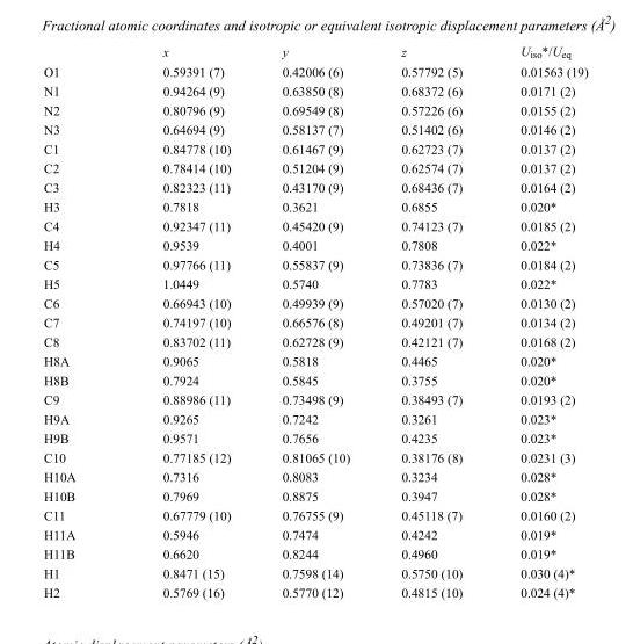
<table><thead><tr><td></td><td>x</td><td>y</td><td>z</td><td>U<sub>iso</sub>*/U<sub>eq</sub></td></tr></thead><tbody><tr><td>O1</td><td>0.59391 (7)</td><td>0.42006 (6)</td><td>0.57792 (5)</td><td>0.01563 (19)</td></tr><tr><td>N1</td><td>0.94264 (9)</td><td>0.63850 (8)</td><td>0.68372 (6)</td><td>0.0171 (2)</td></tr><tr><td>N2</td><td>0.80796 (9)</td><td>0.69549 (8)</td><td>0.57226 (6)</td><td>0.0155 (2)</td></tr><tr><td>N3</td><td>0.64694 (9)</td><td>0.58137 (7)</td><td>0.51402 (6)</td><td>0.0146 (2)</td></tr><tr><td>C1</td><td>0.84778 (10)</td><td>0.61467 (9)</td><td>0.62723 (7)</td><td>0.0137 (2)</td></tr><tr><td>C2</td><td>0.78414 (10)</td><td>0.51204 (9)</td><td>0.62574 (7)</td><td>0.0137 (2)</td></tr><tr><td>C3</td><td>0.82323 (11)</td><td>0.43170 (9)</td><td>0.68436 (7)</td><td>0.0164 (2)</td></tr><tr><td>H3</td><td>0.7818</td><td>0.3621</td><td>0.6855</td><td>0.020*</td></tr><tr><td>C4</td><td>0.92347 (11)</td><td>0.45420 (9)</td><td>0.74123 (7)</td><td>0.0185 (2)</td></tr><tr><td>H4</td><td>0.9539</td><td>0.4001</td><td>0.7808</td><td>0.022*</td></tr><tr><td>C5</td><td>0.97766 (11)</td><td>0.55837 (9)</td><td>0.73836 (7)</td><td>0.0184 (2)</td></tr><tr><td>H5</td><td>1.0449</td><td>0.5740</td><td>0.7783</td><td>0.022*</td></tr><tr><td>C6</td><td>0.66943 (10)</td><td>0.49939 (9)</td><td>0.57020 (7)</td><td>0.0130 (2)</td></tr><tr><td>C7</td><td>0.74197 (10)</td><td>0.66576 (8)</td><td>0.49201 (7)</td><td>0.0134 (2)</td></tr><tr><td>C8</td><td>0.83702 (11)</td><td>0.62728 (9)</td><td>0.42121 (7)</td><td>0.0168 (2)</td></tr><tr><td>H8A</td><td>0.9065</td><td>0.5818</td><td>0.4465</td><td>0.020*</td></tr><tr><td>H8B</td><td>0.7924</td><td>0.5845</td><td>0.3755</td><td>0.020*</td></tr><tr><td>C9</td><td>0.88986 (11)</td><td>0.73498 (9)</td><td>0.38493 (7)</td><td>0.0193 (2)</td></tr><tr><td>H9A</td><td>0.9265</td><td>0.7242</td><td>0.3261</td><td>0.023*</td></tr><tr><td>H9B</td><td>0.9571</td><td>0.7656</td><td>0.4235</td><td>0.023*</td></tr><tr><td>C10</td><td>0.77185 (12)</td><td>0.81065 (10)</td><td>0.38176 (8)</td><td>0.0231 (3)</td></tr><tr><td>H10A</td><td>0.7316</td><td>0.8083</td><td>0.3234</td><td>0.028*</td></tr><tr><td>H10B</td><td>0.7969</td><td>0.8875</td><td>0.3947</td><td>0.028*</td></tr><tr><td>C11</td><td>0.67779 (10)</td><td>0.76755 (9)</td><td>0.45118 (7)</td><td>0.0160 (2)</td></tr><tr><td>H11A</td><td>0.5946</td><td>0.7474</td><td>0.4242</td><td>0.019*</td></tr><tr><td>H11B</td><td>0.6620</td><td>0.8244</td><td>0.4960</td><td>0.019*</td></tr><tr><td>H1</td><td>0.8471 (15)</td><td>0.7598 (14)</td><td>0.5750 (10)</td><td>0.030 (4)*</td></tr><tr><td>H2</td><td>0.5769 (16)</td><td>0.5770 (12)</td><td>0.4815 (10)</td><td>0.024 (4)*</td></tr></tbody></table>